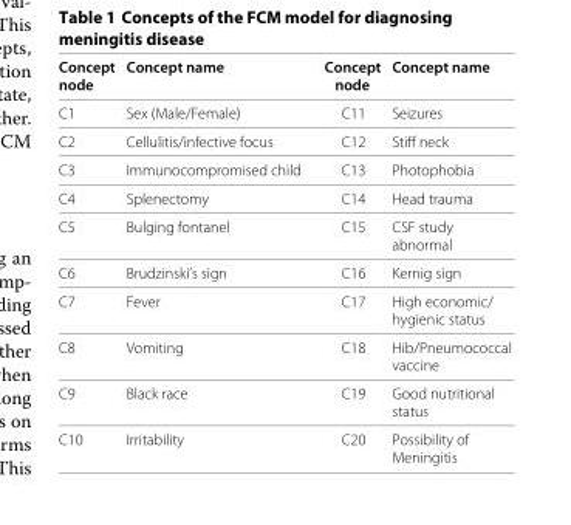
<table><thead><tr><td>Concept node</td><td>Concept name</td><td>Concept node</td><td>Concept name</td></tr></thead><tbody><tr><td>C1</td><td>Sex (Male/Female)</td><td>C11</td><td>Seizures</td></tr><tr><td>C2</td><td>Cellulitis/infective focus</td><td>C12</td><td>Stiff neck</td></tr><tr><td>C3</td><td>Immunocompromised child</td><td>C13</td><td>Photophobia</td></tr><tr><td>C4</td><td>Splenectomy</td><td>C14</td><td>Head trauma</td></tr><tr><td>C5</td><td>Bulging fontanel</td><td>C15</td><td>CSF study abnormal</td></tr><tr><td>C6</td><td>Brudzinski’s sign</td><td>C16</td><td>Kernig sign</td></tr><tr><td>C7</td><td>Fever</td><td>C17</td><td>High economic/ hygienic status</td></tr><tr><td>C8</td><td>Vomiting</td><td>C18</td><td>Hib/Pneumococcal vaccine</td></tr><tr><td>C9</td><td>Black race</td><td>C19</td><td>Good nutritional status</td></tr><tr><td>C10</td><td>Irritability</td><td>C20</td><td>Possibility of Meningitis</td></tr></tbody></table>